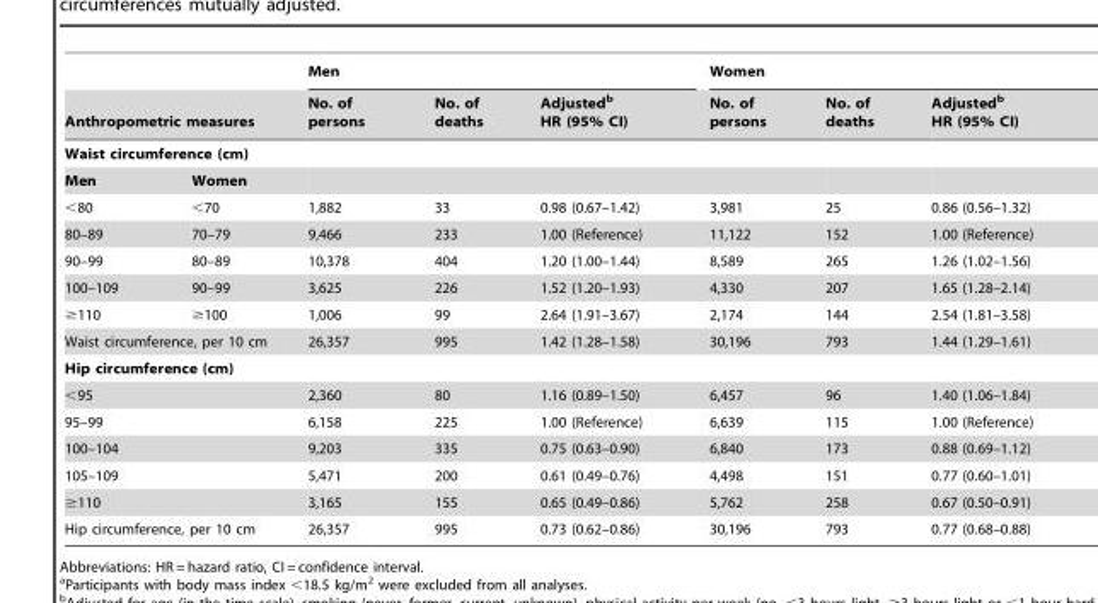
<table><thead><tr><td></td><td></td><td colspan="3">Men</td><td colspan="3">Women</td></tr><tr><td colspan="2">Anthropometric measures</td><td>No. of persons</td><td>No. of deaths</td><td>Adjusted<sup>b</sup> HR (95% CI)</td><td>No. of persons</td><td>No. of deaths</td><td>Adjusted<sup>b</sup> HR (95% CI)</td></tr></thead><tbody><tr><td colspan="8">Waist circumference (cm)</td></tr><tr><td>Men</td><td>Women</td><td></td><td></td><td></td><td></td><td></td><td></td></tr><tr><td>&lt;80</td><td>&lt;70</td><td>1,882</td><td>33</td><td>0.98 (0.67–1.42)</td><td>3,981</td><td>25</td><td>0.86 (0.56–1.32)</td></tr><tr><td>80–89</td><td>70–79</td><td>9,466</td><td>233</td><td>1.00 (Reference)</td><td>11,122</td><td>152</td><td>1.00 (Reference)</td></tr><tr><td>90–99</td><td>80–89</td><td>10,378</td><td>404</td><td>1.20 (1.00–1.44)</td><td>8,589</td><td>265</td><td>1.26 (1.02–1.56)</td></tr><tr><td>100–109</td><td>90–99</td><td>3,625</td><td>226</td><td>1.52 (1.20–1.93)</td><td>4,330</td><td>207</td><td>1.65 (1.28–2.14)</td></tr><tr><td>≥110</td><td>≥100</td><td>1,006</td><td>99</td><td>2.64 (1.91–3.67)</td><td>2,174</td><td>144</td><td>2.54 (1.81–3.58)</td></tr><tr><td colspan="2">Waist circumference, per 10 cm</td><td>26,357</td><td>995</td><td>1.42 (1.28–1.58)</td><td>30,196</td><td>793</td><td>1.44 (1.29–1.61)</td></tr><tr><td colspan="8">Hip circumference (cm)</td></tr><tr><td colspan="2">&lt;95</td><td>2,360</td><td>80</td><td>1.16 (0.89–1.50)</td><td>6,457</td><td>96</td><td>1.40 (1.06–1.84)</td></tr><tr><td colspan="2">95–99</td><td>6,158</td><td>225</td><td>1.00 (Reference)</td><td>6,639</td><td>115</td><td>1.00 (Reference)</td></tr><tr><td colspan="2">100–104</td><td>9,203</td><td>335</td><td>0.75 (0.63–0.90)</td><td>6,840</td><td>173</td><td>0.88 (0.69–1.12)</td></tr><tr><td colspan="2">105–109</td><td>5,471</td><td>200</td><td>0.61 (0.49–0.76)</td><td>4,498</td><td>151</td><td>0.77 (0.60–1.01)</td></tr><tr><td colspan="2">≥110</td><td>3,165</td><td>155</td><td>0.65 (0.49–0.86)</td><td>5,762</td><td>258</td><td>0.67 (0.50–0.91)</td></tr><tr><td colspan="2">Hip circumference, per 10 cm</td><td>26,357</td><td>995</td><td>0.73 (0.62–0.86)</td><td>30,196</td><td>793</td><td>0.77 (0.68–0.88)</td></tr></tbody></table>